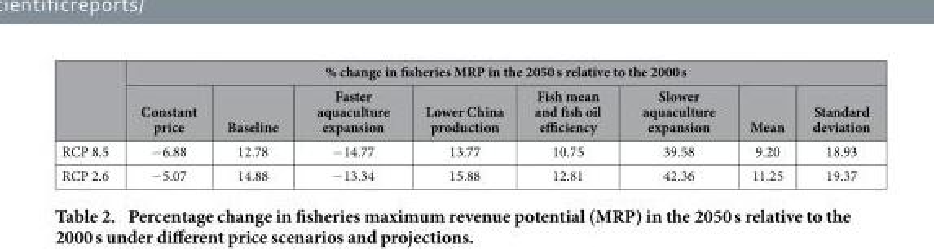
<table><thead><tr><td rowspan="2"></td><td colspan="8">% change in fisheries MRP in the 2050 s relative to the 2000 s</td></tr><tr><td>Constant price</td><td>Baseline</td><td>Faster aquaculture expansion</td><td>Lower China production</td><td>Fish mean and fish oil efficiency</td><td>Slower aquaculture expansion</td><td>Mean</td><td>Standard deviation</td></tr></thead><tbody><tr><td>RCP 8.5</td><td>− 6.88</td><td>12.78</td><td>− 14.77</td><td>13.77</td><td>10.75</td><td>39.58</td><td>9.20</td><td>18.93</td></tr><tr><td>RCP 2.6</td><td>− 5.07</td><td>14.88</td><td>− 13.34</td><td>15.88</td><td>12.81</td><td>42.36</td><td>11.25</td><td>19.37</td></tr></tbody></table>